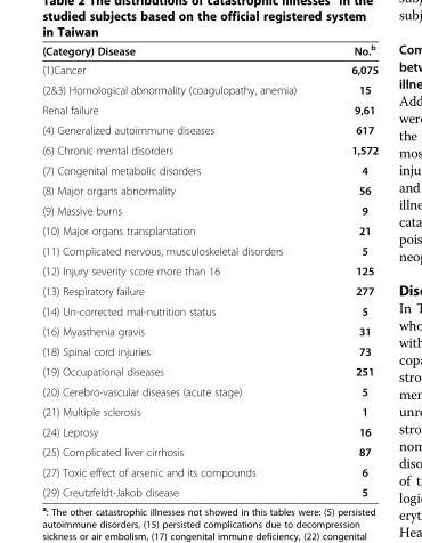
<table><thead><tr><td>(Category) Disease</td><td>No.<sup>b</sup></td></tr></thead><tbody><tr><td>(1)Cancer</td><td>6,075</td></tr><tr><td>(2&amp;3) Homological abnormality (coagulopathy, anemia)</td><td>15</td></tr><tr><td>Renal failure</td><td>9,61</td></tr><tr><td>(4) Generalized autoimmune diseases</td><td>617</td></tr><tr><td>(6) Chronic mental disorders</td><td>1,572</td></tr><tr><td>(7) Congenital metabolic disorders</td><td>4</td></tr><tr><td>(8) Major organs abnormality</td><td>56</td></tr><tr><td>(9) Massive burns</td><td>9</td></tr><tr><td>(10) Major organs transplantation</td><td>21</td></tr><tr><td>(11) Complicated nervous, musculoskeletal disorders</td><td>5</td></tr><tr><td>(12) Injury severity score more than 16</td><td>125</td></tr><tr><td>(13) Respiratory failure</td><td>277</td></tr><tr><td>(14) Un-corrected mal-nutrition status</td><td>5</td></tr><tr><td>(16) Myasthenia gravis</td><td>31</td></tr><tr><td>(18) Spinal cord injuries</td><td>73</td></tr><tr><td>(19) Occupational diseases</td><td>251</td></tr><tr><td>(20) Cerebro-vascular diseases (acute stage)</td><td>5</td></tr><tr><td>(21) Multiple sclerosis</td><td>1</td></tr><tr><td>(24) Leprosy</td><td>16</td></tr><tr><td>(25) Complicated liver cirrhosis</td><td>87</td></tr><tr><td>(27) Toxic effect of arsenic and its compounds</td><td>6</td></tr><tr><td>(29) Creutzfeldt-Jakob disease</td><td>5</td></tr></tbody></table>